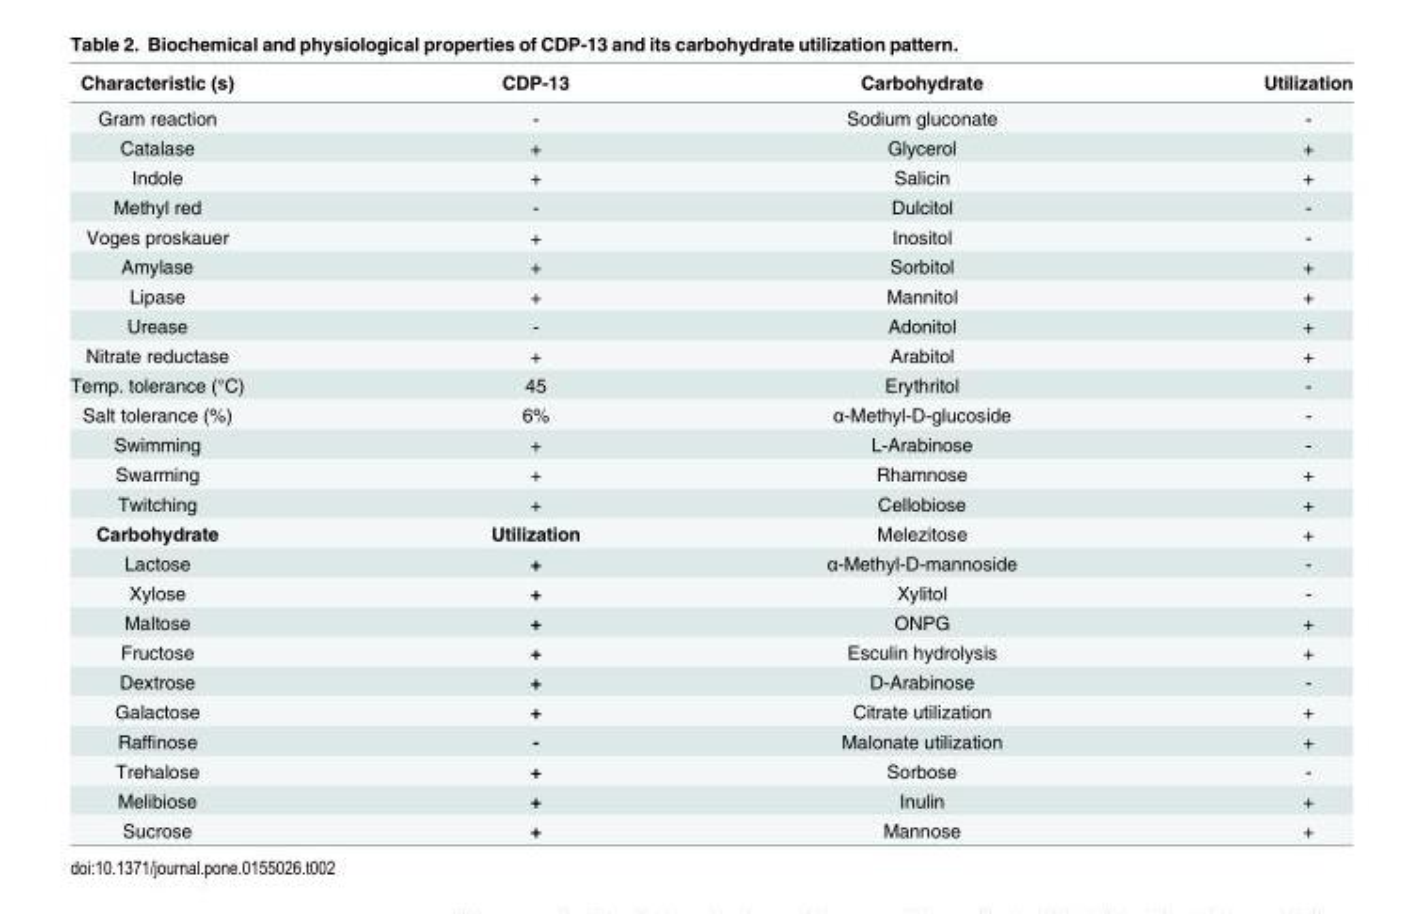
<table><thead><tr><td>Characteristic (s)</td><td>CDP-13</td><td>Carbohydrate</td><td>Utilization</td></tr></thead><tbody><tr><td>Gram reaction</td><td>-</td><td>Sodium gluconate</td><td>-</td></tr><tr><td>Catalase</td><td>+</td><td>Glycerol</td><td>+</td></tr><tr><td>Indole</td><td>+</td><td>Salicin</td><td>+</td></tr><tr><td>Methyl red</td><td>-</td><td>Dulcitol</td><td>-</td></tr><tr><td>Voges proskauer</td><td>+</td><td>Inositol</td><td>-</td></tr><tr><td>Amylase</td><td>+</td><td>Sorbitol</td><td>+</td></tr><tr><td>Lipase</td><td>+</td><td>Mannitol</td><td>+</td></tr><tr><td>Urease</td><td>-</td><td>Adonitol</td><td>+</td></tr><tr><td>Nitrate reductase</td><td>+</td><td>Arabitol</td><td>+</td></tr><tr><td>Temp. tolerance (°C)</td><td>45</td><td>Erythritol</td><td>-</td></tr><tr><td>Salt tolerance (%)</td><td>6%</td><td>α-Methyl-D-glucoside</td><td>-</td></tr><tr><td>Swimming</td><td>+</td><td>L-Arabinose</td><td>-</td></tr><tr><td>Swarming</td><td>+</td><td>Rhamnose</td><td>+</td></tr><tr><td>Twitching</td><td>+</td><td>Cellobiose</td><td>+</td></tr><tr><td>Carbohydrate</td><td>Utilization</td><td>Melezitose</td><td>+</td></tr><tr><td>Lactose</td><td>+</td><td>α-Methyl-D-mannoside</td><td>-</td></tr><tr><td>Xylose</td><td>+</td><td>Xylitol</td><td>-</td></tr><tr><td>Maltose</td><td>+</td><td>ONPG</td><td>+</td></tr><tr><td>Fructose</td><td>+</td><td>Esculin hydrolysis</td><td>+</td></tr><tr><td>Dextrose</td><td>+</td><td>D-Arabinose</td><td>-</td></tr><tr><td>Galactose</td><td>+</td><td>Citrate utilization</td><td>+</td></tr><tr><td>Raffinose</td><td>-</td><td>Malonate utilization</td><td>+</td></tr><tr><td>Trehalose</td><td>+</td><td>Sorbose</td><td>-</td></tr><tr><td>Melibiose</td><td>+</td><td>Inulin</td><td>+</td></tr><tr><td>Sucrose</td><td>+</td><td>Mannose</td><td>+</td></tr></tbody></table>